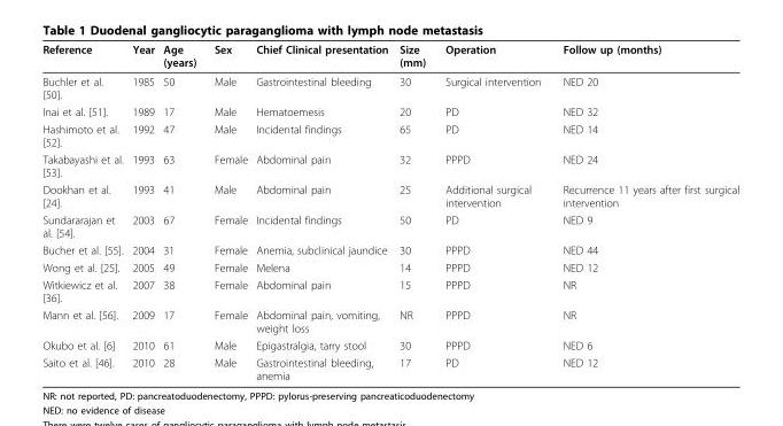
<table><thead><tr><td>Reference</td><td>Year</td><td>Age (years)</td><td>Sex</td><td>Chief Clinical presentation</td><td>Size (mm)</td><td>Operation</td><td>Follow up (months)</td></tr></thead><tbody><tr><td>Buchler et al. [50].</td><td>1985</td><td>50</td><td>Male</td><td>Gastrointestinal bleeding</td><td>30</td><td>Surgical intervention</td><td>NED 20</td></tr><tr><td>Inai et al. [51].</td><td>1989</td><td>17</td><td>Male</td><td>Hematoemesis</td><td>20</td><td>PD</td><td>NED 32</td></tr><tr><td>Hashimoto et al. [52].</td><td>1992</td><td>47</td><td>Male</td><td>Incidental findings</td><td>65</td><td>PD</td><td>NED 14</td></tr><tr><td>Takabayashi et al. [53].</td><td>1993</td><td>63</td><td>Female</td><td>Abdominal pain</td><td>32</td><td>PPPD</td><td>NED 24</td></tr><tr><td>Dookhan et al. [24].</td><td>1993</td><td>41</td><td>Male</td><td>Abdominal pain</td><td>25</td><td>Additional surgical intervention</td><td>Recurrence 11 years after first surgical intervention</td></tr><tr><td>Sundararajan et al. [54].</td><td>2003</td><td>67</td><td>Female</td><td>Incidental findings</td><td>50</td><td>PD</td><td>NED 9</td></tr><tr><td>Bucher et al. [55].</td><td>2004</td><td>31</td><td>Female</td><td>Anemia, subclinical jaundice</td><td>30</td><td>PPPD</td><td>NED 44</td></tr><tr><td>Wong et al. [25].</td><td>2005</td><td>49</td><td>Female</td><td>Melena</td><td>14</td><td>PPPD</td><td>NED 12</td></tr><tr><td>Witkiewicz et al. [36].</td><td>2007</td><td>38</td><td>Female</td><td>Abdominal pain</td><td>15</td><td>PPPD</td><td>NR</td></tr><tr><td>Mann et al. [56].</td><td>2009</td><td>17</td><td>Female</td><td>Abdominal pain, vomiting, weight loss</td><td>NR</td><td>PPPD</td><td>NR</td></tr><tr><td>Okubo et al. [6]</td><td>2010</td><td>61</td><td>Male</td><td>Epigastralgia, tarry stool</td><td>30</td><td>PPPD</td><td>NED 6</td></tr><tr><td>Saito et al. [46].</td><td>2010</td><td>28</td><td>Male</td><td>Gastrointestinal bleeding, anemia</td><td>17</td><td>PD</td><td>NED 12</td></tr></tbody></table>